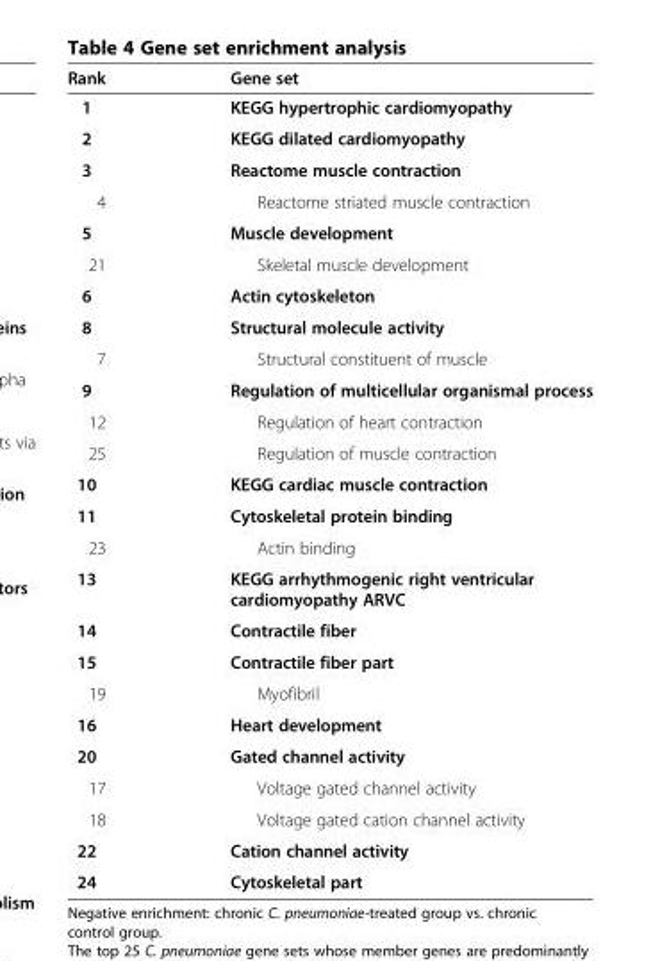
<table><thead><tr><td>Rank</td><td>Gene set</td></tr></thead><tbody><tr><td>1</td><td>KEGG hypertrophic cardiomyopathy</td></tr><tr><td>2</td><td>KEGG dilated cardiomyopathy</td></tr><tr><td>3</td><td>Reactome muscle contraction</td></tr><tr><td>4</td><td>Reactome striated muscle contraction</td></tr><tr><td>5</td><td>Muscle development</td></tr><tr><td>21</td><td>Skeletal muscle development</td></tr><tr><td>6</td><td>Actin cytoskeleton</td></tr><tr><td>8</td><td>Structural molecule activity</td></tr><tr><td>7</td><td>Structural constituent of muscle</td></tr><tr><td>9</td><td>Regulation of multicellular organismal process</td></tr><tr><td>12</td><td>Regulation of heart contraction</td></tr><tr><td>25</td><td>Regulation of muscle contraction</td></tr><tr><td>10</td><td>KEGG cardiac muscle contraction</td></tr><tr><td>11</td><td>Cytoskeletal protein binding</td></tr><tr><td>23</td><td>Actin binding</td></tr><tr><td>13</td><td>KEGG arrhythmogenic right ventricular cardiomyopathy ARVC</td></tr><tr><td>14</td><td>Contractile fiber</td></tr><tr><td>15</td><td>Contractile fiber part</td></tr><tr><td>19</td><td>Myofibril</td></tr><tr><td>16</td><td>Heart development</td></tr><tr><td>20</td><td>Gated channel activity</td></tr><tr><td>17</td><td>Voltage gated channel activity</td></tr><tr><td>18</td><td>Voltage gated cation channel activity</td></tr><tr><td>22</td><td>Cation channel activity</td></tr><tr><td>24</td><td>Cytoskeletal part</td></tr></tbody></table>